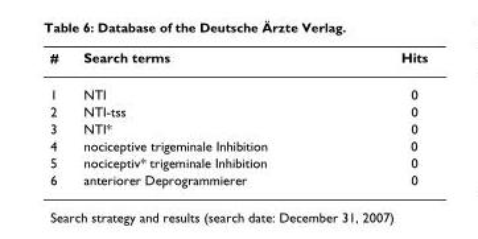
<table><thead><tr><td>#</td><td>Search terms</td><td>Hits</td></tr></thead><tbody><tr><td>1</td><td>NTI</td><td>0</td></tr><tr><td>2</td><td>NTI-tss</td><td>0</td></tr><tr><td>3</td><td>NTI*</td><td>0</td></tr><tr><td>4</td><td>nociceptive trigeminale Inhibition</td><td>0</td></tr><tr><td>5</td><td>nociceptiv* trigeminale Inhibition</td><td>0</td></tr><tr><td>6</td><td>anteriorer Deprogrammierer</td><td>0</td></tr></tbody></table>